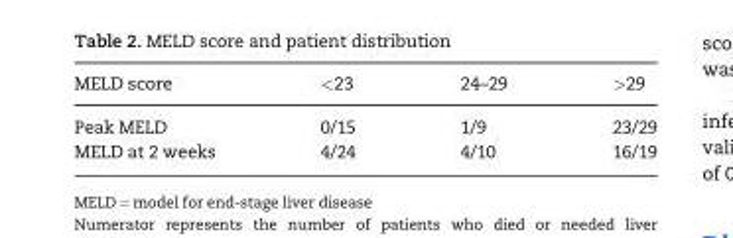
<table><thead><tr><td>MELD score</td><td>&lt;23</td><td>24–29</td><td>&gt;29</td></tr></thead><tbody><tr><td>Peak MELD</td><td>0/15</td><td>1/9</td><td>23/29</td></tr><tr><td>MELD at 2 weeks</td><td>4/24</td><td>4/10</td><td>16/19</td></tr></tbody></table>